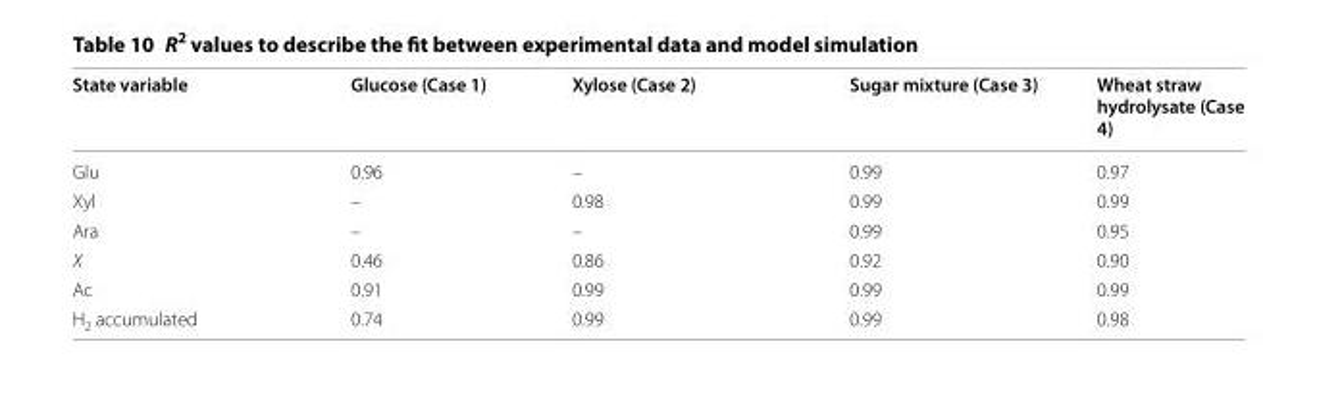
<table><thead><tr><td>State variable</td><td>Glucose (Case 1)</td><td>Xylose (Case 2)</td><td>Sugar mixture (Case 3)</td><td>Wheat straw hydrolysate (Case 4)</td></tr></thead><tbody><tr><td>Glu</td><td>0.96</td><td>–</td><td>0.99</td><td>0.97</td></tr><tr><td>Xyl</td><td>–</td><td>0.98</td><td>0.99</td><td>0.99</td></tr><tr><td>Ara</td><td>–</td><td>–</td><td>0.99</td><td>0.95</td></tr><tr><td>X</td><td>0.46</td><td>0.86</td><td>0.92</td><td>0.90</td></tr><tr><td>Ac</td><td>0.91</td><td>0.99</td><td>0.99</td><td>0.99</td></tr><tr><td>H<sub>2</sub> accumulated</td><td>0.74</td><td>0.99</td><td>0.99</td><td>0.98</td></tr></tbody></table>